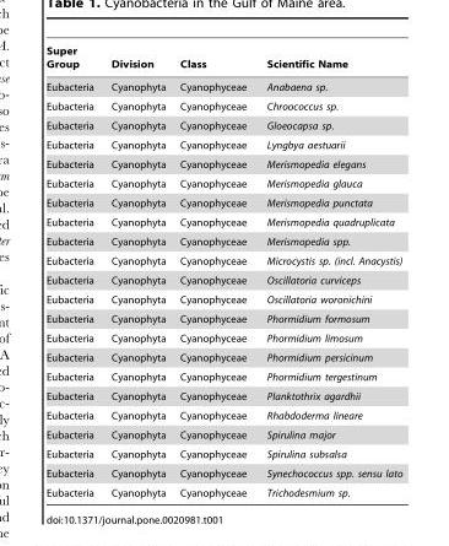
<table><thead><tr><td>Super Group</td><td>Division</td><td>Class</td><td>Scientific Name</td></tr></thead><tbody><tr><td>Eubacteria</td><td>Cyanophyta</td><td>Cyanophyceae</td><td>Anabaena sp.</td></tr><tr><td>Eubacteria</td><td>Cyanophyta</td><td>Cyanophyceae</td><td>Chroococcus sp.</td></tr><tr><td>Eubacteria</td><td>Cyanophyta</td><td>Cyanophyceae</td><td>Gloeocapsa sp.</td></tr><tr><td>Eubacteria</td><td>Cyanophyta</td><td>Cyanophyceae</td><td>Lyngbya aestuarii</td></tr><tr><td>Eubacteria</td><td>Cyanophyta</td><td>Cyanophyceae</td><td>Merismopedia elegans</td></tr><tr><td>Eubacteria</td><td>Cyanophyta</td><td>Cyanophyceae</td><td>Merismopedia glauca</td></tr><tr><td>Eubacteria</td><td>Cyanophyta</td><td>Cyanophyceae</td><td>Merismopedia punctata</td></tr><tr><td>Eubacteria</td><td>Cyanophyta</td><td>Cyanophyceae</td><td>Merismopedia quadruplicata</td></tr><tr><td>Eubacteria</td><td>Cyanophyta</td><td>Cyanophyceae</td><td>Merismopedia spp.</td></tr><tr><td>Eubacteria</td><td>Cyanophyta</td><td>Cyanophyceae</td><td>Microcystis sp. (incl. Anacystis)</td></tr><tr><td>Eubacteria</td><td>Cyanophyta</td><td>Cyanophyceae</td><td>Oscillatoria curviceps</td></tr><tr><td>Eubacteria</td><td>Cyanophyta</td><td>Cyanophyceae</td><td>Oscillatoria woronichini</td></tr><tr><td>Eubacteria</td><td>Cyanophyta</td><td>Cyanophyceae</td><td>Phormidium formosum</td></tr><tr><td>Eubacteria</td><td>Cyanophyta</td><td>Cyanophyceae</td><td>Phormidium limosum</td></tr><tr><td>Eubacteria</td><td>Cyanophyta</td><td>Cyanophyceae</td><td>Phormidium persicinum</td></tr><tr><td>Eubacteria</td><td>Cyanophyta</td><td>Cyanophyceae</td><td>Phormidium tergestinum</td></tr><tr><td>Eubacteria</td><td>Cyanophyta</td><td>Cyanophyceae</td><td>Planktothrix agardhii</td></tr><tr><td>Eubacteria</td><td>Cyanophyta</td><td>Cyanophyceae</td><td>Rhabdoderma lineare</td></tr><tr><td>Eubacteria</td><td>Cyanophyta</td><td>Cyanophyceae</td><td>Spirulina major</td></tr><tr><td>Eubacteria</td><td>Cyanophyta</td><td>Cyanophyceae</td><td>Spirulina subsalsa</td></tr><tr><td>Eubacteria</td><td>Cyanophyta</td><td>Cyanophyceae</td><td>Synechococcus spp. sensu lato</td></tr><tr><td>Eubacteria</td><td>Cyanophyta</td><td>Cyanophyceae</td><td>Trichodesmium sp.</td></tr></tbody></table>